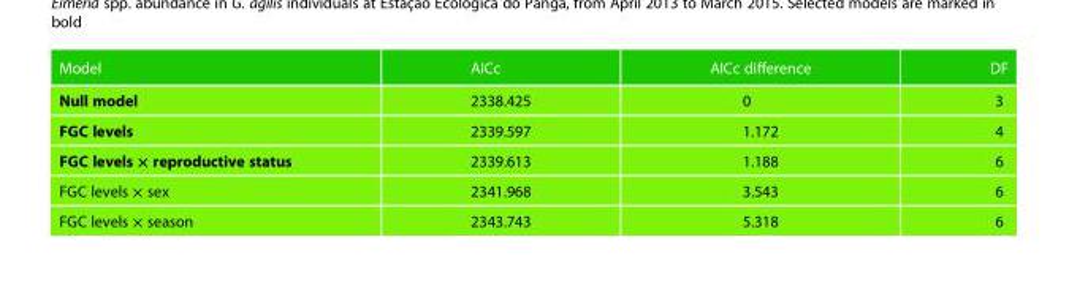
<table><thead><tr><td>Model</td><td>AICc</td><td>AICc difference</td><td>DF</td></tr></thead><tbody><tr><td>Null model</td><td>2338.425</td><td>0</td><td>3</td></tr><tr><td>FGC levels</td><td>2339.597</td><td>1.172</td><td>4</td></tr><tr><td>FGC levels × reproductive status</td><td>2339.613</td><td>1.188</td><td>6</td></tr><tr><td>FGC levels × sex</td><td>2341.968</td><td>3.543</td><td>6</td></tr><tr><td>FGC levels × season</td><td>2343.743</td><td>5.318</td><td>6</td></tr></tbody></table>